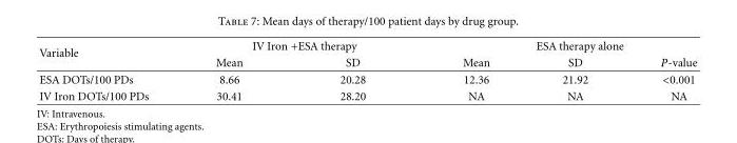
<table><thead><tr><td rowspan="2">Variable</td><td colspan="2">IV Iron +ESA therapy</td><td colspan="3">ESA therapy alone</td></tr><tr><td>Mean</td><td>SD</td><td>Mean</td><td>SD</td><td>P-value</td></tr></thead><tbody><tr><td>ESA DOTs/100 PDs</td><td>8.66</td><td>20.28</td><td>12.36</td><td>21.92</td><td>&lt;0.001</td></tr><tr><td>IV Iron DOTs/100 PDs</td><td>30.41</td><td>28.20</td><td>NA</td><td>NA</td><td>NA</td></tr></tbody></table>